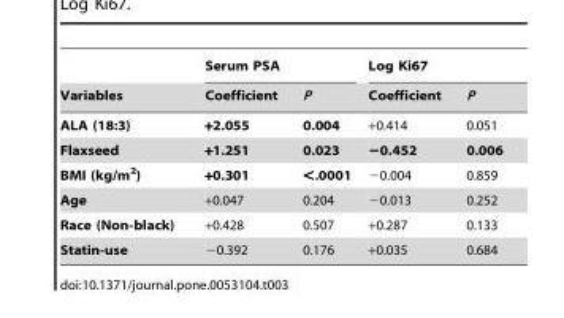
<table><thead><tr><td rowspan="2">Variables</td><td colspan="2">Serum PSA</td><td colspan="2">Log Ki67</td></tr><tr><td>Coefficient</td><td>P</td><td>Coefficient</td><td>P</td></tr></thead><tbody><tr><td>ALA (18:3)</td><td>+2.055</td><td>0.004</td><td>+0.414</td><td>0.051</td></tr><tr><td>Flaxseed</td><td>+1.251</td><td>0.023</td><td>−0.452</td><td>0.006</td></tr><tr><td>BMI (kg/m<sup>2</sup>)</td><td>+0.301</td><td>&lt;.0001</td><td>−0.004</td><td>0.859</td></tr><tr><td>Age</td><td>+0.047</td><td>0.204</td><td>−0.013</td><td>0.252</td></tr><tr><td>Race (Non-black)</td><td>+0.428</td><td>0.507</td><td>+0.287</td><td>0.133</td></tr><tr><td>Statin-use</td><td>−0.392</td><td>0.176</td><td>+0.035</td><td>0.684</td></tr></tbody></table>